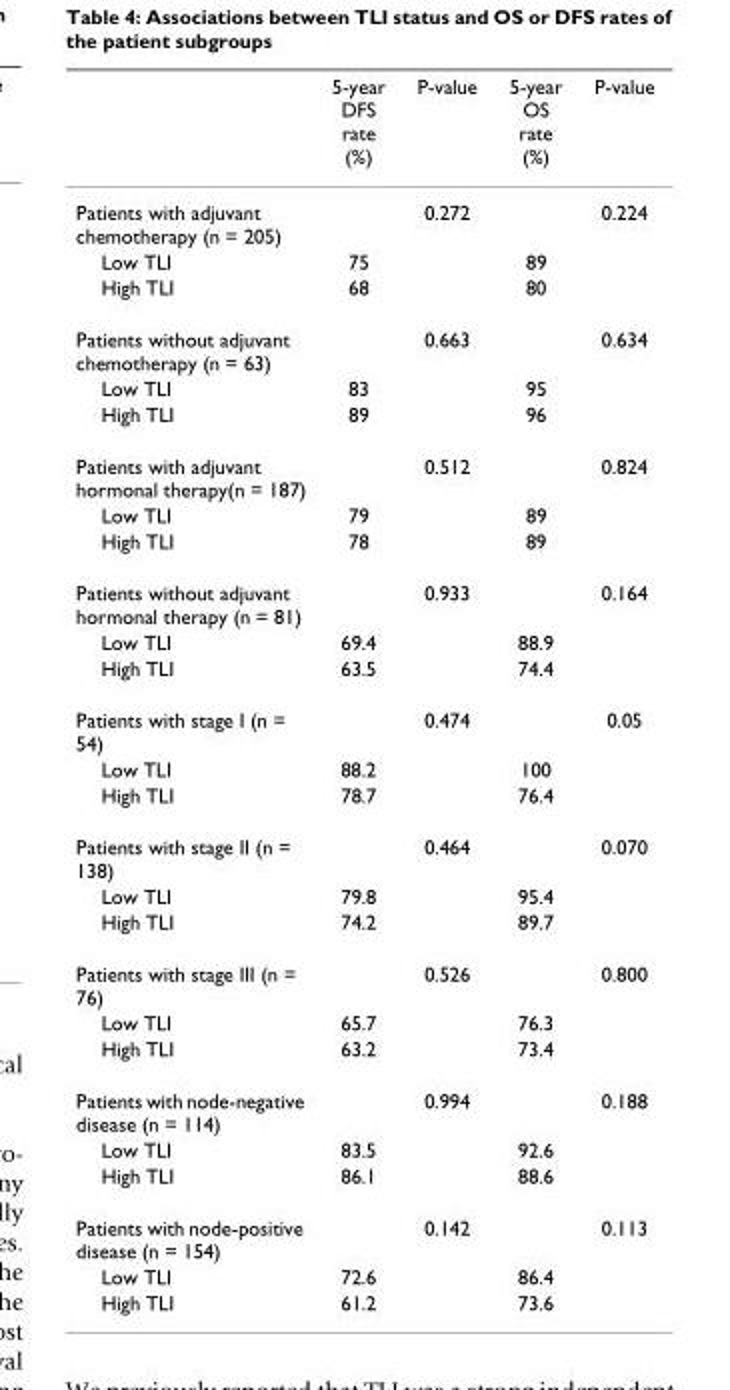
<table><thead><tr><td></td><td>5-year DFS rate (%)</td><td>P-value</td><td>5-year OS rate (%)</td><td>P-value</td></tr></thead><tbody><tr><td>Patients with adjuvant chemotherapy (n = 205)</td><td></td><td>0.272</td><td></td><td>0.224</td></tr><tr><td>Low TLI</td><td>75</td><td></td><td>89</td><td></td></tr><tr><td>High TLI</td><td>68</td><td></td><td>80</td><td></td></tr><tr><td>Patients without adjuvant chemotherapy (n = 63)</td><td></td><td>0.663</td><td></td><td>0.634</td></tr><tr><td>Low TLI</td><td>83</td><td></td><td>95</td><td></td></tr><tr><td>High TLI</td><td>89</td><td></td><td>96</td><td></td></tr><tr><td>Patients with adjuvant hormonal therapy(n = 187)</td><td></td><td>0.512</td><td></td><td>0.824</td></tr><tr><td>Low TLI</td><td>79</td><td></td><td>89</td><td></td></tr><tr><td>High TLI</td><td>78</td><td></td><td>89</td><td></td></tr><tr><td>Patients without adjuvant hormonal therapy (n = 81)</td><td></td><td>0.933</td><td></td><td>0.164</td></tr><tr><td>Low TLI</td><td>69.4</td><td></td><td>88.9</td><td></td></tr><tr><td>High TLI</td><td>63.5</td><td></td><td>74.4</td><td></td></tr><tr><td>Patients with stage I (n = 54)</td><td></td><td>0.474</td><td></td><td>0.05</td></tr><tr><td>Low TLI</td><td>88.2</td><td></td><td>100</td><td></td></tr><tr><td>High TLI</td><td>78.7</td><td></td><td>76.4</td><td></td></tr><tr><td>Patients with stage II (n = 138)</td><td></td><td>0.464</td><td></td><td>0.070</td></tr><tr><td>Low TLI</td><td>79.8</td><td></td><td>95.4</td><td></td></tr><tr><td>High TLI</td><td>74.2</td><td></td><td>89.7</td><td></td></tr><tr><td>Patients with stage III (n = 76)</td><td></td><td>0.526</td><td></td><td>0.800</td></tr><tr><td>Low TLI</td><td>65.7</td><td></td><td>76.3</td><td></td></tr><tr><td>High TLI</td><td>63.2</td><td></td><td>73.4</td><td></td></tr><tr><td>Patients with node-negative disease (n = 114)</td><td></td><td>0.994</td><td></td><td>0.188</td></tr><tr><td>Low TLI</td><td>83.5</td><td></td><td>92.6</td><td></td></tr><tr><td>High TLI</td><td>86.1</td><td></td><td>88.6</td><td></td></tr><tr><td>Patients with node-positive disease (n = 154)</td><td></td><td>0.142</td><td></td><td>0.113</td></tr><tr><td>Low TLI</td><td>72.6</td><td></td><td>86.4</td><td></td></tr><tr><td>High TLI</td><td>61.2</td><td></td><td>73.6</td><td></td></tr></tbody></table>